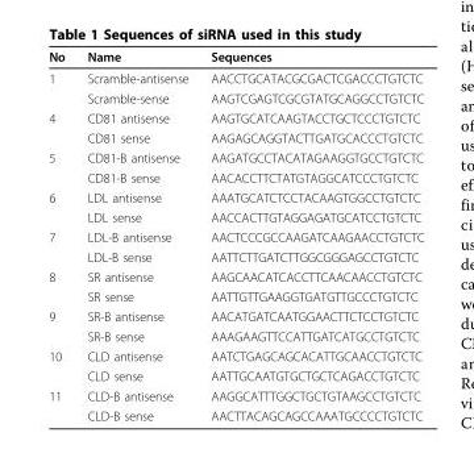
<table><thead><tr><td>No</td><td>Name</td><td>Sequences</td></tr></thead><tbody><tr><td rowspan="2">1</td><td>Scramble-antisense</td><td>AACCTGCATACGCGACTCGACCCTGTCTC</td></tr><tr><td>Scramble-sense</td><td>AAGTCGAGTCGCGTATGCAGGCCTGTCTC</td></tr><tr><td rowspan="2">4</td><td>CD81 antisense</td><td>AAGTGCATCAAGTACCTGCTCCCTGTCTC</td></tr><tr><td>CD81 sense</td><td>AAGAGCAGGTACTTGATGCACCCTGTCTC</td></tr><tr><td rowspan="2">5</td><td>CD81-B antisense</td><td>AAGATGCCTACATAGAAGGTGCCTGTCTC</td></tr><tr><td>CD81-B sense</td><td>AACACCTTCTATGTAGGCATCCCTGTCTC</td></tr><tr><td rowspan="2">6</td><td>LDL antisense</td><td>AAATGCATCTCCTACAAGTGGCCTGTCTC</td></tr><tr><td>LDL sense</td><td>AACCACTTGTAGGAGATGCATCCTGTCTC</td></tr><tr><td rowspan="2">7</td><td>LDL-B antisense</td><td>AACTCCCGCCAAGATCAAGAACCTGTCTC</td></tr><tr><td>LDL-B sense</td><td>AATTCTTGATCTTGGCGGGAGCCTGTCTC</td></tr><tr><td rowspan="2">8</td><td>SR antisense</td><td>AAGCAACATCACCTTCAACAACCTGTCTC</td></tr><tr><td>SR sense</td><td>AATTGTTGAAGGTGATGTTGCCCTGTCTC</td></tr><tr><td rowspan="2">9</td><td>SR-B antisense</td><td>AACATGATCAATGGAACTTCTCCTGTCTC</td></tr><tr><td>SR-B sense</td><td>AAAGAAGTTCCATTGATCATGCCTGTCTC</td></tr><tr><td rowspan="2">10</td><td>CLD antisense</td><td>AATCTGAGCAGCACATTGCAACCTGTCTC</td></tr><tr><td>CLD sense</td><td>AATTGCAATGTGCTGCTCAGACCTGTCTC</td></tr><tr><td rowspan="2">11</td><td>CLD-B antisense</td><td>AAGGCATTTGGCTGCTGTAAGCCTGTCTC</td></tr><tr><td>CLD-B sense</td><td>AACTTACAGCAGCCAAATGCCCCTGTCTC</td></tr></tbody></table>